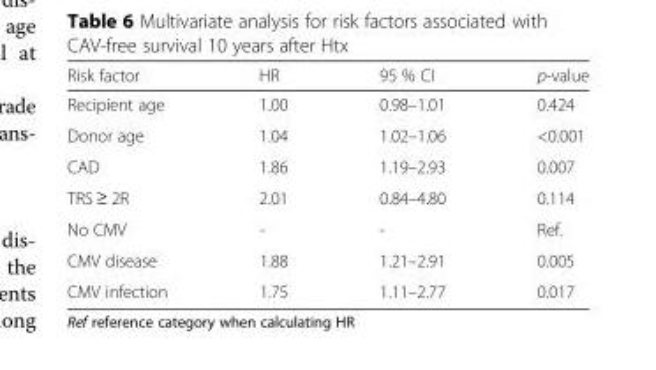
<table><thead><tr><td>Risk factor</td><td>HR</td><td>95 % CI</td><td>p-value</td></tr></thead><tbody><tr><td>Recipient age</td><td>1.00</td><td>0.98–1.01</td><td>0.424</td></tr><tr><td>Donor age</td><td>1.04</td><td>1.02–1.06</td><td>&lt;0.001</td></tr><tr><td>CAD</td><td>1.86</td><td>1.19–2.93</td><td>0.007</td></tr><tr><td>TRS ≥ 2R</td><td>2.01</td><td>0.84–4.80</td><td>0.114</td></tr><tr><td>No CMV</td><td>-</td><td>-</td><td>Ref.</td></tr><tr><td>CMV disease</td><td>1.88</td><td>1.21–2.91</td><td>0.005</td></tr><tr><td>CMV infection</td><td>1.75</td><td>1.11–2.77</td><td>0.017</td></tr></tbody></table>